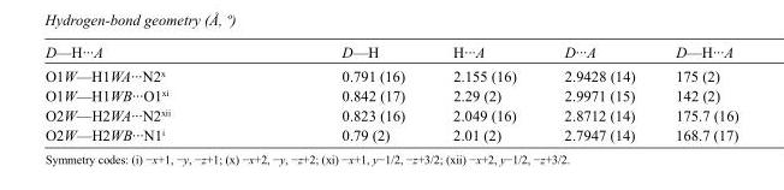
<table><tbody><tr><td>D—H···A</td><td>D—H</td><td>H···A</td><td>D···A</td><td>D—H···A</td></tr><tr><td>O1W—H1WA···N2<sup>x</sup></td><td>0.791 (16)</td><td>2.155 (16)</td><td>2.9428 (14)</td><td>175 (2)</td></tr><tr><td>O1W—H1WB···O1<sup>xi</sup></td><td>0.842 (17)</td><td>2.29 (2)</td><td>2.9971 (15)</td><td>142 (2)</td></tr><tr><td>O2W—H2WA···N2<sup>xii</sup></td><td>0.823 (16)</td><td>2.049 (16)</td><td>2.8712 (14)</td><td>175.7 (16)</td></tr><tr><td>O2W—H2WB···N1<sup>i</sup></td><td>0.79 (2)</td><td>2.01 (2)</td><td>2.7947 (14)</td><td>168.7 (17)</td></tr></tbody></table>